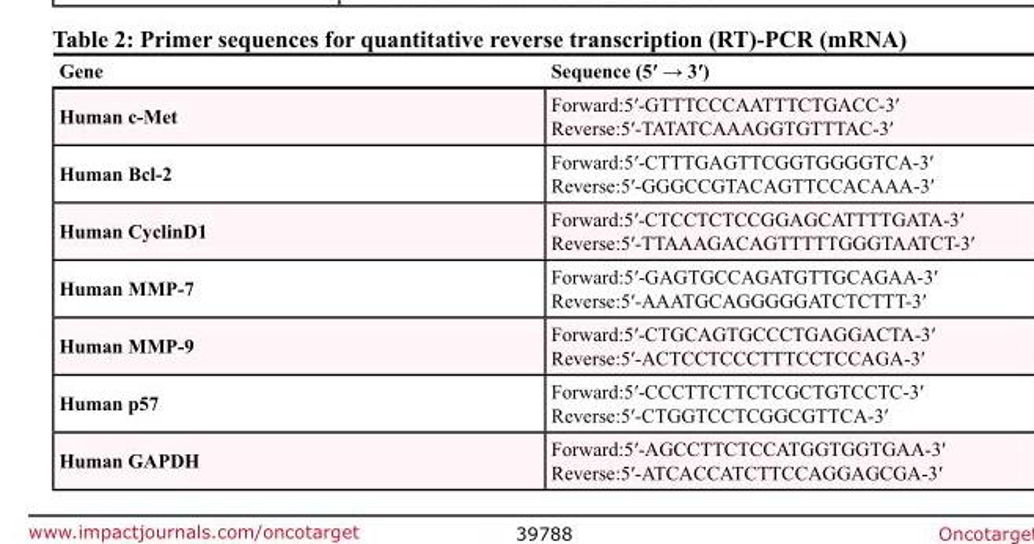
<table><thead><tr><td>Gene</td><td>Sequence (5′ → 3′)</td></tr></thead><tbody><tr><td>Human c-Met</td><td>Forward:5′-GTTTCCCAATTTCTGACC-3′ Reverse:5′-TATATCAAAGGTGTTTAC-3′</td></tr><tr><td>Human Bcl-2</td><td>Forward:5′-CTTTGAGTTCGGTGGGGTCA-3′ Reverse:5′-GGGCCGTACAGTTCCACAAA-3′</td></tr><tr><td>Human CyclinD1</td><td>Forward:5′-CTCCTCTCCGGAGCATTTTGATA-3′ Reverse:5′-TTAAAGACAGTTTTTGGGTAATCT-3′</td></tr><tr><td>Human MMP-7</td><td>Forward:5′-GAGTGCCAGATGTTGCAGAA-3′ Reverse:5′-AAATGCAGGGGGATCTCTTT-3′</td></tr><tr><td>Human MMP-9</td><td>Forward:5′-CTGCAGTGCCCTGAGGACTA-3′ Reverse:5′-ACTCCTCCCTTTCCTCCAGA-3′</td></tr><tr><td>Human p57</td><td>Forward:5′-CCCTTCTTCTCGCTGTCCTC-3′ Reverse:5′-CTGGTCCTCGGCGTTCA-3′</td></tr><tr><td>Human GAPDH</td><td>Forward:5′-AGCCTTCTCCATGGTGGTGAA-3′ Reverse:5′-ATCACCATCTTCCAGGAGCGA-3′</td></tr></tbody></table>